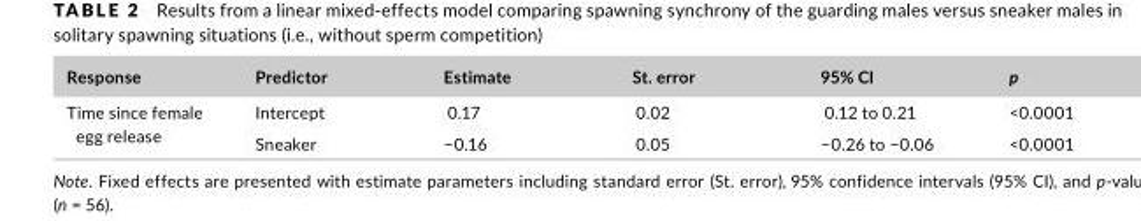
<table><thead><tr><td>Response</td><td>Predictor</td><td>Estimate</td><td>St. error</td><td>95% CI</td><td>p</td></tr></thead><tbody><tr><td rowspan="2">Time since female egg release</td><td>Intercept</td><td>0.17</td><td>0.02</td><td>0.12 to 0.21</td><td>&lt;0.0001</td></tr><tr><td>Sneaker</td><td>−0.16</td><td>0.05</td><td>−0.26 to −0.06</td><td>&lt;0.0001</td></tr></tbody></table>